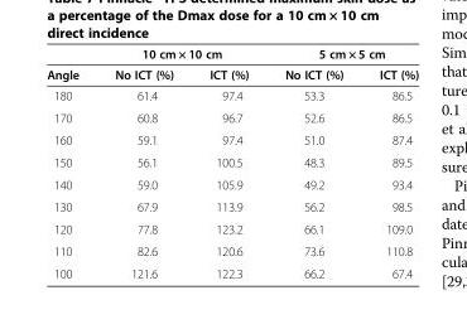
<table><thead><tr><td rowspan="2">Angle</td><td colspan="2">10 cm × 10 cm</td><td colspan="2">5 cm × 5 cm</td></tr><tr><td>No ICT (%)</td><td>ICT (%)</td><td>No ICT (%)</td><td>ICT (%)</td></tr></thead><tbody><tr><td>180</td><td>61.4</td><td>97.4</td><td>53.3</td><td>86.5</td></tr><tr><td>170</td><td>60.8</td><td>96.7</td><td>52.6</td><td>86.5</td></tr><tr><td>160</td><td>59.1</td><td>97.4</td><td>51.0</td><td>87.4</td></tr><tr><td>150</td><td>56.1</td><td>100.5</td><td>48.3</td><td>89.5</td></tr><tr><td>140</td><td>59.0</td><td>105.9</td><td>49.2</td><td>93.4</td></tr><tr><td>130</td><td>67.9</td><td>113.9</td><td>56.2</td><td>98.5</td></tr><tr><td>120</td><td>77.8</td><td>123.2</td><td>66.1</td><td>109.0</td></tr><tr><td>110</td><td>82.6</td><td>120.6</td><td>73.6</td><td>110.8</td></tr><tr><td>100</td><td>121.6</td><td>122.3</td><td>66.2</td><td>67.4</td></tr></tbody></table>